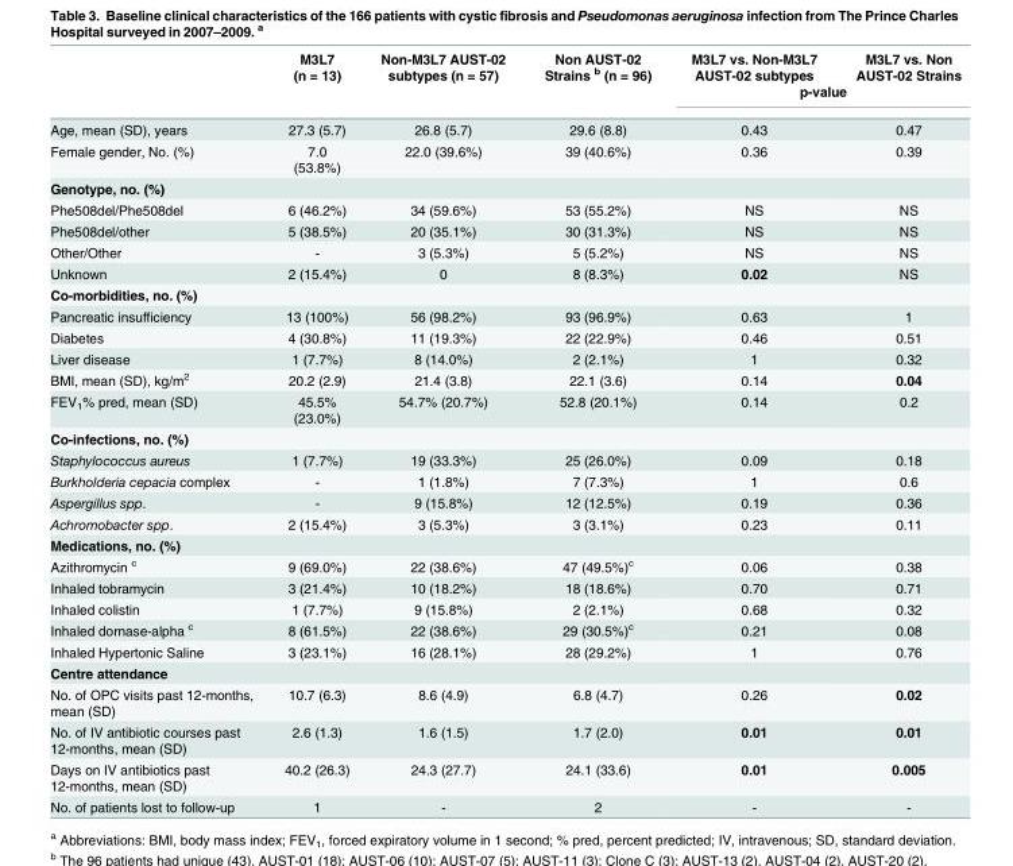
<table><thead><tr><td rowspan="2"></td><td rowspan="2">M3L7 (n = 13)</td><td rowspan="2">Non-M3L7 AUST-02 subtypes (n = 57)</td><td rowspan="2">Non AUST-02 Strains <sup>b</sup> (n = 96)</td><td>M3L7 vs. Non-M3L7 AUST-02 subtypes</td><td>M3L7 vs. Non AUST-02 Strains</td></tr><tr><td colspan="2">p-value</td></tr></thead><tbody><tr><td>Age, mean (SD), years</td><td>27.3 (5.7)</td><td>26.8 (5.7)</td><td>29.6 (8.8)</td><td>0.43</td><td>0.47</td></tr><tr><td>Female gender, No. (%)</td><td>7.0 (53.8%)</td><td>22.0 (39.6%)</td><td>39 (40.6%)</td><td>0.36</td><td>0.39</td></tr><tr><td colspan="6">Genotype, no. (%)</td></tr><tr><td>Phe508del/Phe508del</td><td>6 (46.2%)</td><td>34 (59.6%)</td><td>53 (55.2%)</td><td>NS</td><td>NS</td></tr><tr><td>Phe508del/other</td><td>5 (38.5%)</td><td>20 (35.1%)</td><td>30 (31.3%)</td><td>NS</td><td>NS</td></tr><tr><td>Other/Other</td><td>-</td><td>3 (5.3%)</td><td>5 (5.2%)</td><td>NS</td><td>NS</td></tr><tr><td>Unknown</td><td>2 (15.4%)</td><td>0</td><td>8 (8.3%)</td><td>0.02</td><td>NS</td></tr><tr><td colspan="6">Co-morbidities, no. (%)</td></tr><tr><td>Pancreatic insufficiency</td><td>13 (100%)</td><td>56 (98.2%)</td><td>93 (96.9%)</td><td>0.63</td><td>1</td></tr><tr><td>Diabetes</td><td>4 (30.8%)</td><td>11 (19.3%)</td><td>22 (22.9%)</td><td>0.46</td><td>0.51</td></tr><tr><td>Liver disease</td><td>1 (7.7%)</td><td>8 (14.0%)</td><td>2 (2.1%)</td><td>1</td><td>0.32</td></tr><tr><td>BMI, mean (SD), kg/m<sup>2</sup></td><td>20.2 (2.9)</td><td>21.4 (3.8)</td><td>22.1 (3.6)</td><td>0.14</td><td>0.04</td></tr><tr><td>FEV<sub>1</sub>% pred, mean (SD)</td><td>45.5% (23.0%)</td><td>54.7% (20.7%)</td><td>52.8 (20.1%)</td><td>0.14</td><td>0.2</td></tr><tr><td colspan="6">Co-infections, no. (%)</td></tr><tr><td>Staphylococcus aureus</td><td>1 (7.7%)</td><td>19 (33.3%)</td><td>25 (26.0%)</td><td>0.09</td><td>0.18</td></tr><tr><td>Burkholderia cepacia complex</td><td>-</td><td>1 (1.8%)</td><td>7 (7.3%)</td><td>1</td><td>0.6</td></tr><tr><td>Aspergillus spp.</td><td>-</td><td>9 (15.8%)</td><td>12 (12.5%)</td><td>0.19</td><td>0.36</td></tr><tr><td>Achromobacter spp.</td><td>2 (15.4%)</td><td>3 (5.3%)</td><td>3 (3.1%)</td><td>0.23</td><td>0.11</td></tr><tr><td colspan="6">Medications, no. (%)</td></tr><tr><td>Azithromycin <sup>c</sup></td><td>9 (69.0%)</td><td>22 (38.6%)</td><td>47 (49.5%)<sup>c</sup></td><td>0.06</td><td>0.38</td></tr><tr><td>Inhaled tobramycin</td><td>3 (21.4%)</td><td>10 (18.2%)</td><td>18 (18.6%)</td><td>0.70</td><td>0.71</td></tr><tr><td>Inhaled colistin</td><td>1 (7.7%)</td><td>9 (15.8%)</td><td>2 (2.1%)</td><td>0.68</td><td>0.32</td></tr><tr><td>Inhaled dornase-alpha <sup>c</sup></td><td>8 (61.5%)</td><td>22 (38.6%)</td><td>29 (30.5%)<sup>c</sup></td><td>0.21</td><td>0.08</td></tr><tr><td>Inhaled Hypertonic Saline</td><td>3 (23.1%)</td><td>16 (28.1%)</td><td>28 (29.2%)</td><td>1</td><td>0.76</td></tr><tr><td colspan="6">Centre attendance</td></tr><tr><td>No. of OPC visits past 12-months, mean (SD)</td><td>10.7 (6.3)</td><td>8.6 (4.9)</td><td>6.8 (4.7)</td><td>0.26</td><td>0.02</td></tr><tr><td>No. of IV antibiotic courses past 12-months, mean (SD)</td><td>2.6 (1.3)</td><td>1.6 (1.5)</td><td>1.7 (2.0)</td><td>0.01</td><td>0.01</td></tr><tr><td>Days on IV antibiotics past 12-months, mean (SD)</td><td>40.2 (26.3)</td><td>24.3 (27.7)</td><td>24.1 (33.6)</td><td>0.01</td><td>0.005</td></tr><tr><td>No. of patients lost to follow-up</td><td>1</td><td>-</td><td>2</td><td>-</td><td>-</td></tr></tbody></table>